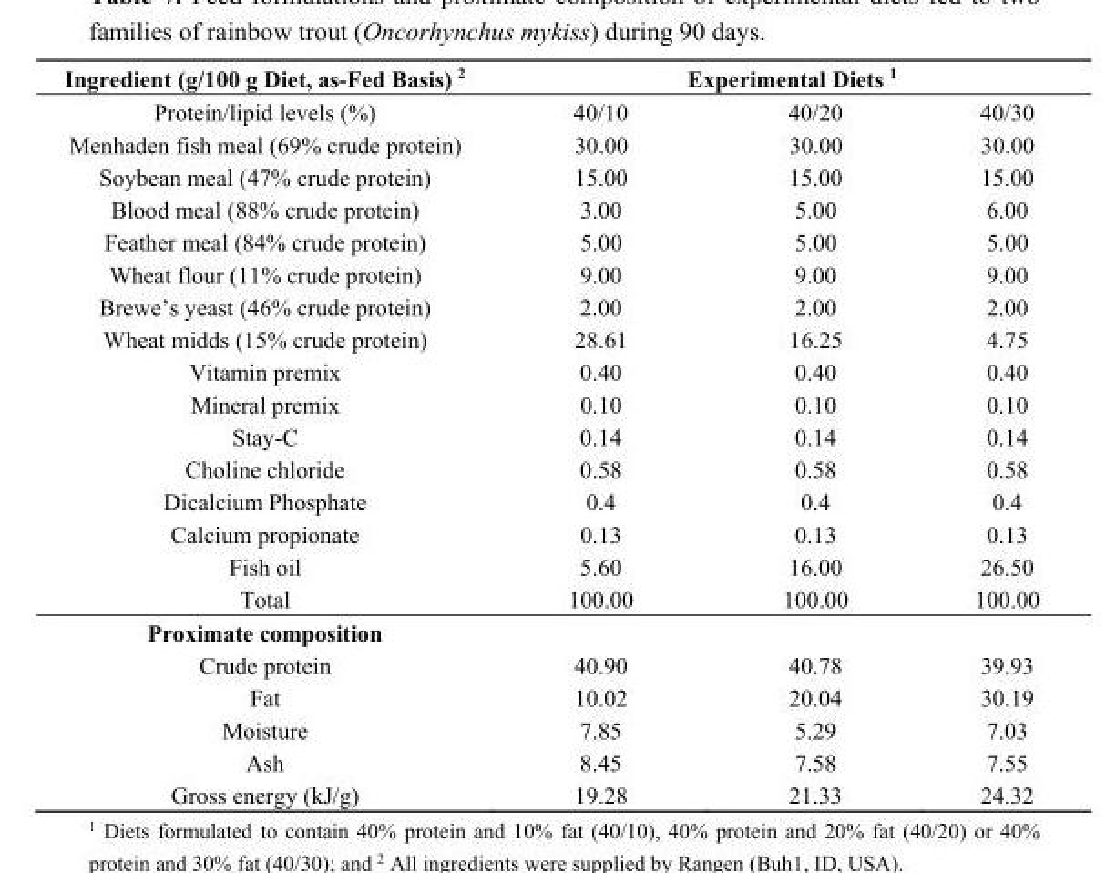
<table><thead><tr><td rowspan="2">Ingredient (g/100 g Diet, as-Fed Basis) <sup>2</sup> Protein/lipid levels (%)</td><td colspan="3">Experimental Diets <sup>1</sup></td></tr><tr><td>40/10</td><td>40/20</td><td>40/30</td></tr></thead><tbody><tr><td>Menhaden fish meal (69% crude protein)</td><td>30.00</td><td>30.00</td><td>30.00</td></tr><tr><td>Soybean meal (47% crude protein)</td><td>15.00</td><td>15.00</td><td>15.00</td></tr><tr><td>Blood meal (88% crude protein)</td><td>3.00</td><td>5.00</td><td>6.00</td></tr><tr><td>Feather meal (84% crude protein)</td><td>5.00</td><td>5.00</td><td>5.00</td></tr><tr><td>Wheat flour (11% crude protein)</td><td>9.00</td><td>9.00</td><td>9.00</td></tr><tr><td>Brewe’s yeast (46% crude protein)</td><td>2.00</td><td>2.00</td><td>2.00</td></tr><tr><td>Wheat midds (15% crude protein)</td><td>28.61</td><td>16.25</td><td>4.75</td></tr><tr><td>Vitamin premix</td><td>0.40</td><td>0.40</td><td>0.40</td></tr><tr><td>Mineral premix</td><td>0.10</td><td>0.10</td><td>0.10</td></tr><tr><td>Stay-C</td><td>0.14</td><td>0.14</td><td>0.14</td></tr><tr><td>Choline chloride</td><td>0.58</td><td>0.58</td><td>0.58</td></tr><tr><td>Dicalcium Phosphate</td><td>0.4</td><td>0.4</td><td>0.4</td></tr><tr><td>Calcium propionate</td><td>0.13</td><td>0.13</td><td>0.13</td></tr><tr><td>Fish oil</td><td>5.60</td><td>16.00</td><td>26.50</td></tr><tr><td>Total</td><td>100.00</td><td>100.00</td><td>100.00</td></tr><tr><td colspan="4">Proximate composition</td></tr><tr><td>Crude protein</td><td>40.90</td><td>40.78</td><td>39.93</td></tr><tr><td>Fat</td><td>10.02</td><td>20.04</td><td>30.19</td></tr><tr><td>Moisture</td><td>7.85</td><td>5.29</td><td>7.03</td></tr><tr><td>Ash</td><td>8.45</td><td>7.58</td><td>7.55</td></tr><tr><td>Gross energy (kJ/g)</td><td>19.28</td><td>21.33</td><td>24.32</td></tr></tbody></table>